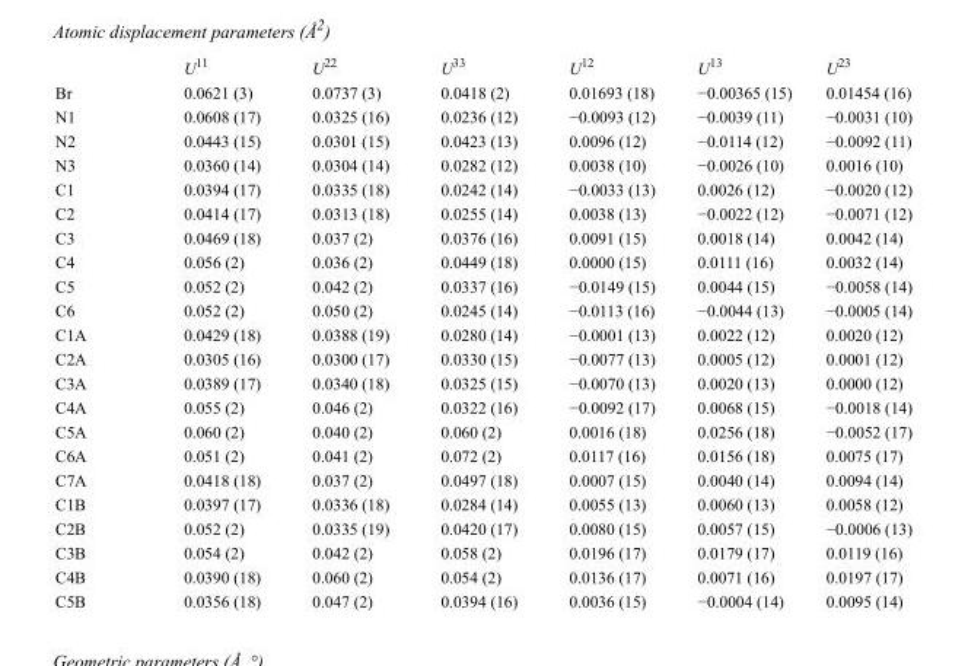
<table><thead><tr><td></td><td>U<sup>11</sup></td><td>U<sup>22</sup></td><td>U<sup>33</sup></td><td>U<sup>12</sup></td><td>U<sup>13</sup></td><td>U<sup>23</sup></td></tr></thead><tbody><tr><td>Br</td><td>0.0621 (3)</td><td>0.0737 (3)</td><td>0.0418 (2)</td><td>0.01693 (18)</td><td>−0.00365 (15)</td><td>0.01454 (16)</td></tr><tr><td>N1</td><td>0.0608 (17)</td><td>0.0325 (16)</td><td>0.0236 (12)</td><td>−0.0093 (12)</td><td>−0.0039 (11)</td><td>−0.0031 (10)</td></tr><tr><td>N2</td><td>0.0443 (15)</td><td>0.0301 (15)</td><td>0.0423 (13)</td><td>0.0096 (12)</td><td>−0.0114 (12)</td><td>−0.0092 (11)</td></tr><tr><td>N3</td><td>0.0360 (14)</td><td>0.0304 (14)</td><td>0.0282 (12)</td><td>0.0038 (10)</td><td>−0.0026 (10)</td><td>0.0016 (10)</td></tr><tr><td>C1</td><td>0.0394 (17)</td><td>0.0335 (18)</td><td>0.0242 (14)</td><td>−0.0033 (13)</td><td>0.0026 (12)</td><td>−0.0020 (12)</td></tr><tr><td>C2</td><td>0.0414 (17)</td><td>0.0313 (18)</td><td>0.0255 (14)</td><td>0.0038 (13)</td><td>−0.0022 (12)</td><td>−0.0071 (12)</td></tr><tr><td>C3</td><td>0.0469 (18)</td><td>0.037 (2)</td><td>0.0376 (16)</td><td>0.0091 (15)</td><td>0.0018 (14)</td><td>0.0042 (14)</td></tr><tr><td>C4</td><td>0.056 (2)</td><td>0.036 (2)</td><td>0.0449 (18)</td><td>0.0000 (15)</td><td>0.0111 (16)</td><td>0.0032 (14)</td></tr><tr><td>C5</td><td>0.052 (2)</td><td>0.042 (2)</td><td>0.0337 (16)</td><td>−0.0149 (15)</td><td>0.0044 (15)</td><td>−0.0058 (14)</td></tr><tr><td>C6</td><td>0.052 (2)</td><td>0.050 (2)</td><td>0.0245 (14)</td><td>−0.0113 (16)</td><td>−0.0044 (13)</td><td>−0.0005 (14)</td></tr><tr><td>C1A</td><td>0.0429 (18)</td><td>0.0388 (19)</td><td>0.0280 (14)</td><td>−0.0001 (13)</td><td>0.0022 (12)</td><td>0.0020 (12)</td></tr><tr><td>C2A</td><td>0.0305 (16)</td><td>0.0300 (17)</td><td>0.0330 (15)</td><td>−0.0077 (13)</td><td>0.0005 (12)</td><td>0.0001 (12)</td></tr><tr><td>C3A</td><td>0.0389 (17)</td><td>0.0340 (18)</td><td>0.0325 (15)</td><td>−0.0070 (13)</td><td>0.0020 (13)</td><td>0.0000 (12)</td></tr><tr><td>C4A</td><td>0.055 (2)</td><td>0.046 (2)</td><td>0.0322 (16)</td><td>−0.0092 (17)</td><td>0.0068 (15)</td><td>−0.0018 (14)</td></tr><tr><td>C5A</td><td>0.060 (2)</td><td>0.040 (2)</td><td>0.060 (2)</td><td>0.0016 (18)</td><td>0.0256 (18)</td><td>−0.0052 (17)</td></tr><tr><td>C6A</td><td>0.051 (2)</td><td>0.041 (2)</td><td>0.072 (2)</td><td>0.0117 (16)</td><td>0.0156 (18)</td><td>0.0075 (17)</td></tr><tr><td>C7A</td><td>0.0418 (18)</td><td>0.037 (2)</td><td>0.0497 (18)</td><td>0.0007 (15)</td><td>0.0040 (14)</td><td>0.0094 (14)</td></tr><tr><td>C1B</td><td>0.0397 (17)</td><td>0.0336 (18)</td><td>0.0284 (14)</td><td>0.0055 (13)</td><td>0.0060 (13)</td><td>0.0058 (12)</td></tr><tr><td>C2B</td><td>0.052 (2)</td><td>0.0335 (19)</td><td>0.0420 (17)</td><td>0.0080 (15)</td><td>0.0057 (15)</td><td>−0.0006 (13)</td></tr><tr><td>C3B</td><td>0.054 (2)</td><td>0.042 (2)</td><td>0.058 (2)</td><td>0.0196 (17)</td><td>0.0179 (17)</td><td>0.0119 (16)</td></tr><tr><td>C4B</td><td>0.0390 (18)</td><td>0.060 (2)</td><td>0.054 (2)</td><td>0.0136 (17)</td><td>0.0071 (16)</td><td>0.0197 (17)</td></tr><tr><td>C5B</td><td>0.0356 (18)</td><td>0.047 (2)</td><td>0.0394 (16)</td><td>0.0036 (15)</td><td>−0.0004 (14)</td><td>0.0095 (14)</td></tr></tbody></table>